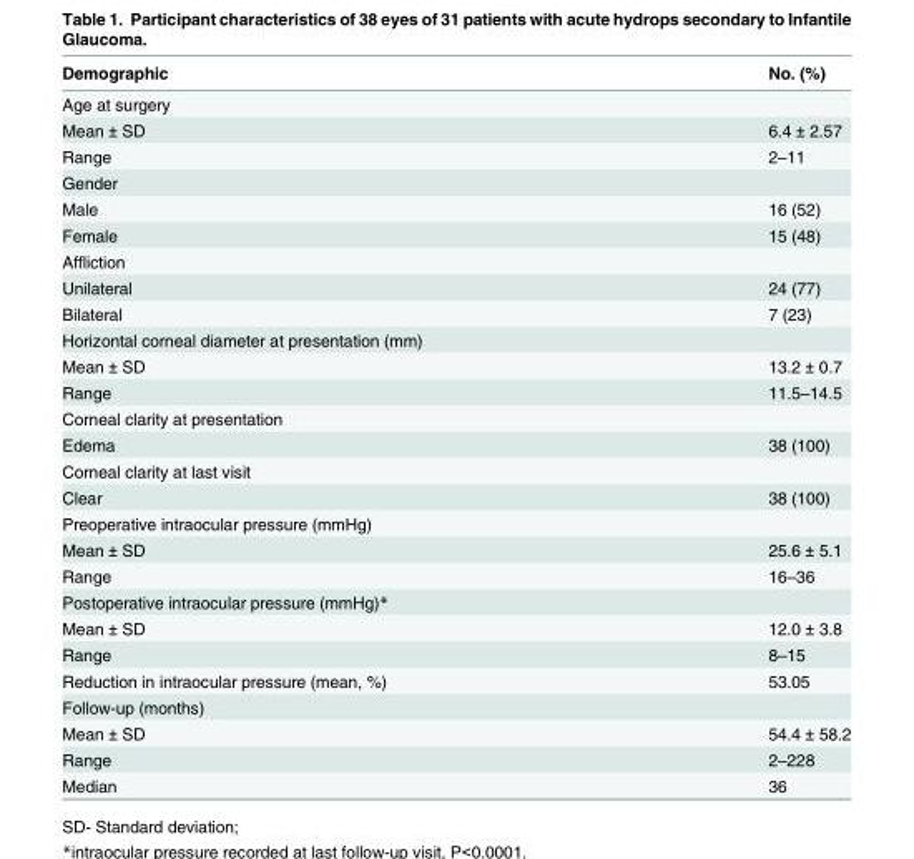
<table><thead><tr><td>Demographic</td><td>No. (%)</td></tr></thead><tbody><tr><td colspan="2">Age at surgery</td></tr><tr><td>Mean ± SD</td><td>6.4 ± 2.57</td></tr><tr><td>Range</td><td>2–11</td></tr><tr><td colspan="2">Gender</td></tr><tr><td>Male</td><td>16 (52)</td></tr><tr><td>Female</td><td>15 (48)</td></tr><tr><td colspan="2">Affliction</td></tr><tr><td>Unilateral</td><td>24 (77)</td></tr><tr><td>Bilateral</td><td>7 (23)</td></tr><tr><td colspan="2">Horizontal corneal diameter at presentation (mm)</td></tr><tr><td>Mean ± SD</td><td>13.2 ± 0.7</td></tr><tr><td>Range</td><td>11.5–14.5</td></tr><tr><td colspan="2">Corneal clarity at presentation</td></tr><tr><td>Edema</td><td>38 (100)</td></tr><tr><td colspan="2">Corneal clarity at last visit</td></tr><tr><td>Clear</td><td>38 (100)</td></tr><tr><td colspan="2">Preoperative intraocular pressure (mmHg)</td></tr><tr><td>Mean ± SD</td><td>25.6 ± 5.1</td></tr><tr><td>Range</td><td>16–36</td></tr><tr><td colspan="2">Postoperative intraocular pressure (mmHg)*</td></tr><tr><td>Mean ± SD</td><td>12.0 ± 3.8</td></tr><tr><td>Range</td><td>8–15</td></tr><tr><td>Reduction in intraocular pressure (mean, %)</td><td>53.05</td></tr><tr><td colspan="2">Follow-up (months)</td></tr><tr><td>Mean ± SD</td><td>54.4 ± 58.2</td></tr><tr><td>Range</td><td>2–228</td></tr><tr><td>Median</td><td>36</td></tr></tbody></table>